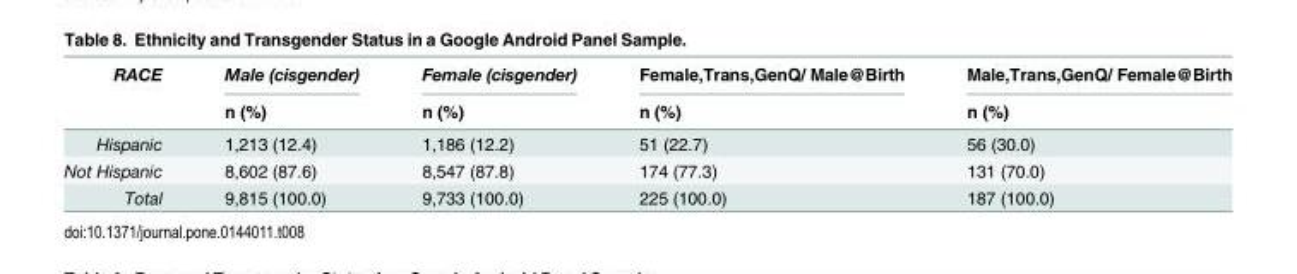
<table><thead><tr><td rowspan="2">RACE</td><td rowspan="2">Male (cisgender) n (%)</td><td rowspan="2">Female (cisgender) n (%)</td><td rowspan="2">Female,Trans,GenQ/ Male@Birth n (%)</td><td rowspan="2">Male,Trans,GenQ/ Female@Birth n (%)</td></tr><tr></tr></thead><tbody><tr><td>Hispanic</td><td>1,213 (12.4)</td><td>1,186 (12.2)</td><td>51 (22.7)</td><td>56 (30.0)</td></tr><tr><td>Not Hispanic</td><td>8,602 (87.6)</td><td>8,547 (87.8)</td><td>174 (77.3)</td><td>131 (70.0)</td></tr><tr><td>Total</td><td>9,815 (100.0)</td><td>9,733 (100.0)</td><td>225 (100.0)</td><td>187 (100.0)</td></tr></tbody></table>